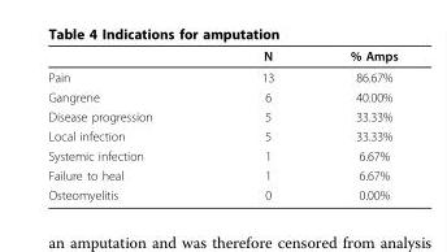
<table><thead><tr><td></td><td>N</td><td>% Amps</td></tr></thead><tbody><tr><td>Pain</td><td>13</td><td>86.67%</td></tr><tr><td>Gangrene</td><td>6</td><td>40.00%</td></tr><tr><td>Disease progression</td><td>5</td><td>33.33%</td></tr><tr><td>Local infection</td><td>5</td><td>33.33%</td></tr><tr><td>Systemic infection</td><td>1</td><td>6.67%</td></tr><tr><td>Failure to heal</td><td>1</td><td>6.67%</td></tr><tr><td>Osteomyelitis</td><td>0</td><td>0.00%</td></tr></tbody></table>